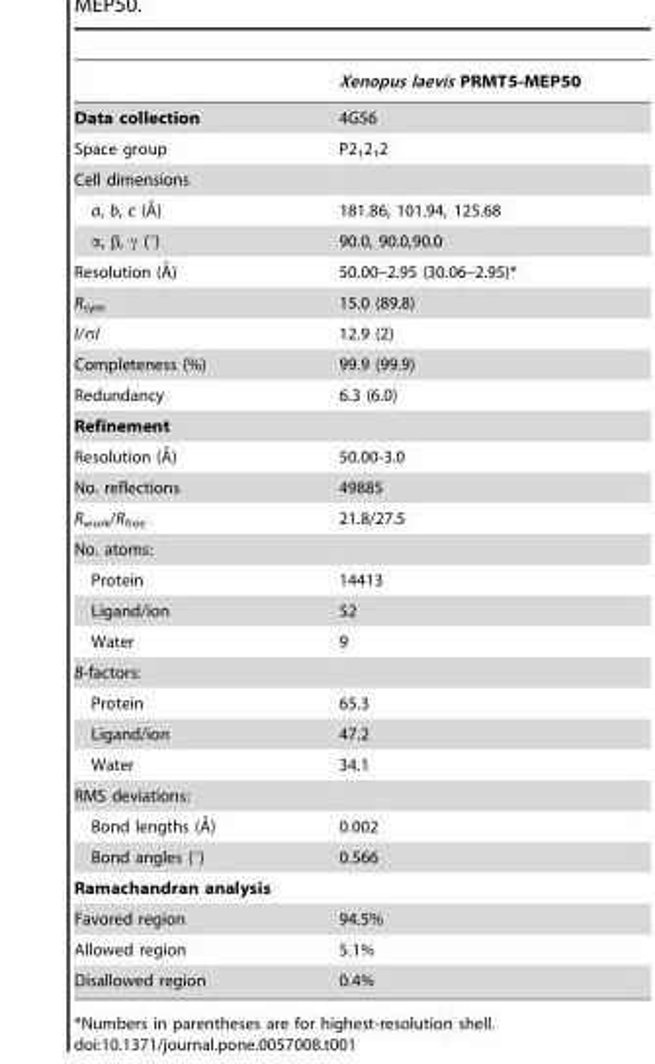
<table><thead><tr><td></td><td>Xenopus laevis PRMT5-MEP50</td></tr></thead><tbody><tr><td>Data collection</td><td>4G56</td></tr><tr><td>Space group</td><td>P2<sub>1</sub>2<sub>1</sub>2</td></tr><tr><td colspan="2">Cell dimensions</td></tr><tr><td>a, b, c (A˚)</td><td>181.86, 101.94, 125.68</td></tr><tr><td>α, β, γ (°)</td><td>90.0, 90.0,90.0</td></tr><tr><td>Resolution (A˚)</td><td>50.00–2.95 (30.06–2.95)*</td></tr><tr><td>R<sub>sym</sub></td><td>15.0 (89.8)</td></tr><tr><td>I/σI</td><td>12.9 (2)</td></tr><tr><td>Completeness (%)</td><td>99.9 (99.9)</td></tr><tr><td>Redundancy</td><td>6.3 (6.0)</td></tr><tr><td colspan="2">Refinement</td></tr><tr><td>Resolution (A˚)</td><td>50.00-3.0</td></tr><tr><td>No. reflections</td><td>49885</td></tr><tr><td>R<sub>work</sub>/R<sub>free</sub></td><td>21.8/27.5</td></tr><tr><td colspan="2">No. atoms:</td></tr><tr><td>Protein</td><td>14413</td></tr><tr><td>Ligand/ion</td><td>52</td></tr><tr><td>Water</td><td>9</td></tr><tr><td colspan="2">B-factors:</td></tr><tr><td>Protein</td><td>65.3</td></tr><tr><td>Ligand/ion</td><td>47.2</td></tr><tr><td>Water</td><td>34.1</td></tr><tr><td colspan="2">RMS deviations:</td></tr><tr><td>Bond lengths (A˚)</td><td>0.002</td></tr><tr><td>Bond angles (°)</td><td>0.566</td></tr><tr><td colspan="2">Ramachandran analysis</td></tr><tr><td>Favored region</td><td>94.5%</td></tr><tr><td>Allowed region</td><td>5.1%</td></tr><tr><td>Disallowed region</td><td>0.4%</td></tr></tbody></table>